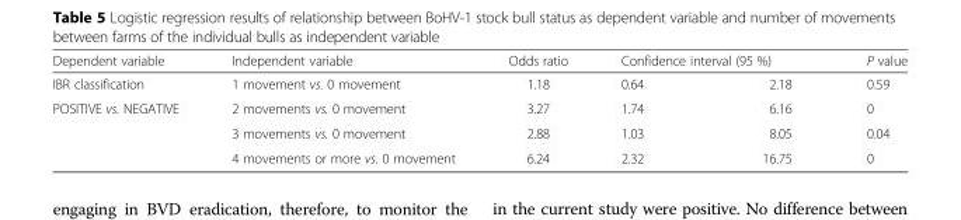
<table><thead><tr><td rowspan="2">Dependent variable IBR classification</td><td rowspan="2">Independent variable 1 movement vs. 0 movement</td><td rowspan="2">Odds ratio 1.18</td><td colspan="2">Confidence interval (95 %)</td><td rowspan="2">P value 0.59</td></tr><tr><td>0.64</td><td>2.18</td></tr></thead><tbody><tr><td rowspan="3">POSITIVE vs. NEGATIVE</td><td>2 movements vs. 0 movement</td><td>3.27</td><td>1.74</td><td>6.16</td><td>0</td></tr><tr><td>3 movements vs. 0 movement</td><td>2.88</td><td>1.03</td><td>8.05</td><td>0.04</td></tr><tr><td>4 movements or more vs. 0 movement</td><td>6.24</td><td>2.32</td><td>16.75</td><td>0</td></tr></tbody></table>